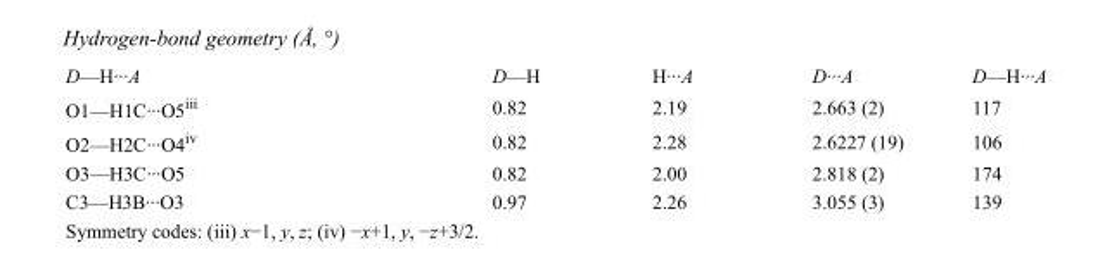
<table><tbody><tr><td>D—H···A</td><td>D—H</td><td>H···A</td><td>D···A</td><td>D—H···A</td></tr><tr><td>O1—H1C···O5<sup>iii</sup></td><td>0.82</td><td>2.19</td><td>2.663 (2)</td><td>117</td></tr><tr><td>O2—H2C···O4<sup>iv</sup></td><td>0.82</td><td>2.28</td><td>2.6227 (19)</td><td>106</td></tr><tr><td>O3—H3C···O5</td><td>0.82</td><td>2.00</td><td>2.818 (2)</td><td>174</td></tr><tr><td>C3—H3B···O3</td><td>0.97</td><td>2.26</td><td>3.055 (3)</td><td>139</td></tr></tbody></table>